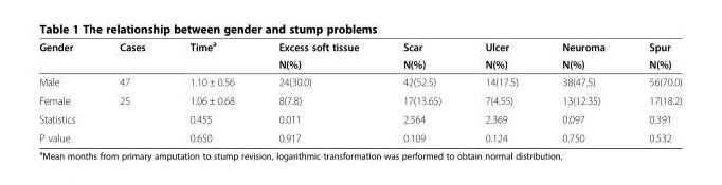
<table><thead><tr><td rowspan="2">Gender</td><td rowspan="2">Cases</td><td rowspan="2">Time<sup>a</sup></td><td rowspan="2">Excess soft tissue N(%)</td><td rowspan="2">Scar N(%)</td><td rowspan="2">Ulcer N(%)</td><td rowspan="2">Neuroma N(%)</td><td rowspan="2">Spur N(%)</td></tr><tr></tr></thead><tbody><tr><td>Male</td><td>47</td><td>1.10 ± 0.56</td><td>24(30.0)</td><td>42(52.5)</td><td>14(17.5)</td><td>38(47.5)</td><td>56(70.0)</td></tr><tr><td>Female</td><td>25</td><td>1.06 ± 0.68</td><td>8(7.8)</td><td>17(13.65)</td><td>7(4.55)</td><td>13(12.35)</td><td>17(18.2)</td></tr><tr><td>Statistics</td><td></td><td>0.455</td><td>0.011</td><td>2.564</td><td>2.369</td><td>0.097</td><td>0.391</td></tr><tr><td>P value</td><td></td><td>0.650</td><td>0.917</td><td>0.109</td><td>0.124</td><td>0.750</td><td>0.532</td></tr></tbody></table>